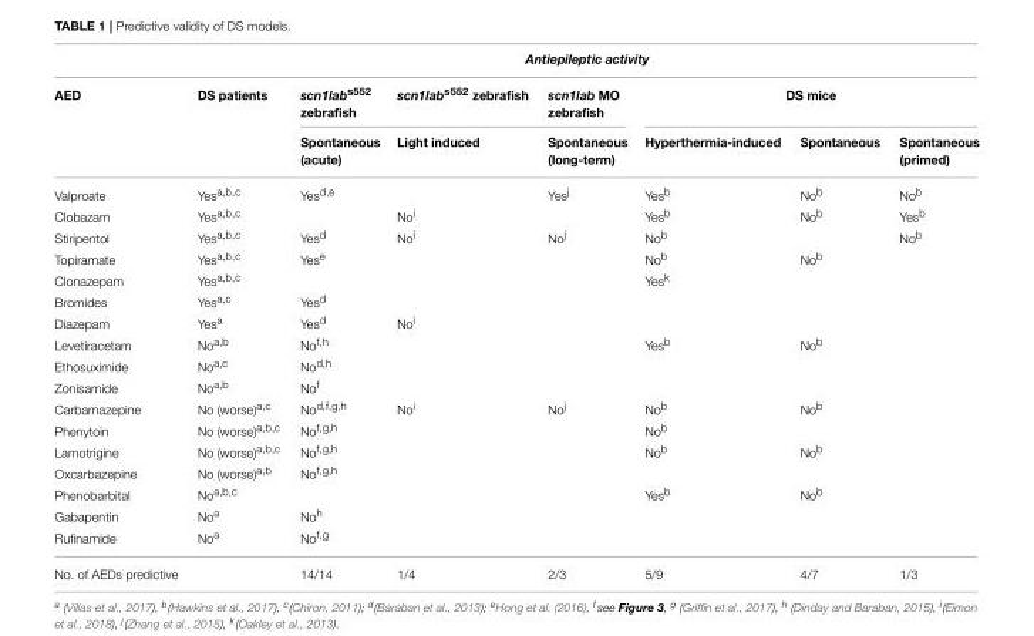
<table><thead><tr><td rowspan="3">AED</td><td colspan="7">Antiepileptic activity</td></tr><tr><td rowspan="2">DS patients</td><td rowspan="2">scn1lab<sup>s552</sup> zebrafish Spontaneous (acute)</td><td rowspan="2">scn1lab<sup>s552</sup> zebrafish Light induced</td><td rowspan="2">scn1lab MO zebrafish Spontaneous (long-term)</td><td colspan="3">DS mice</td></tr><tr><td>Hyperthermia-induced</td><td>Spontaneous</td><td>Spontaneous (primed)</td></tr></thead><tbody><tr><td>Valproate</td><td>Yes<sup>a,b,c</sup></td><td>Yes<sup>d,e</sup></td><td></td><td>Yes<sup>j</sup></td><td>Yes<sup>b</sup></td><td>No<sup>b</sup></td><td>No<sup>b</sup></td></tr><tr><td>Clobazam</td><td>Yes<sup>a,b,c</sup></td><td></td><td>No<sup>i</sup></td><td></td><td>Yes<sup>b</sup></td><td>No<sup>b</sup></td><td>Yes<sup>b</sup></td></tr><tr><td>Stiripentol</td><td>Yes<sup>a,b,c</sup></td><td>Yes<sup>d</sup></td><td>No<sup>i</sup></td><td>No<sup>j</sup></td><td>No<sup>b</sup></td><td></td><td>No<sup>b</sup></td></tr><tr><td>Topiramate</td><td>Yes<sup>a,b,c</sup></td><td>Yes<sup>e</sup></td><td></td><td></td><td>No<sup>b</sup></td><td>No<sup>b</sup></td><td></td></tr><tr><td>Clonazepam</td><td>Yes<sup>a,b,c</sup></td><td></td><td></td><td></td><td>Yes<sup>k</sup></td><td></td><td></td></tr><tr><td>Bromides</td><td>Yes<sup>a,c</sup></td><td>Yes<sup>d</sup></td><td></td><td></td><td></td><td></td><td></td></tr><tr><td>Diazepam</td><td>Yes<sup>a</sup></td><td>Yes<sup>d</sup></td><td>No<sup>i</sup></td><td></td><td></td><td></td><td></td></tr><tr><td>Levetiracetam</td><td>No<sup>a,b</sup></td><td>No<sup>f,h</sup></td><td></td><td></td><td>Yes<sup>b</sup></td><td>No<sup>b</sup></td><td></td></tr><tr><td>Ethosuximide</td><td>No<sup>a,c</sup></td><td>No<sup>d,h</sup></td><td></td><td></td><td></td><td></td><td></td></tr><tr><td>Zonisamide</td><td>No<sup>a,b</sup></td><td>No<sup>f</sup></td><td></td><td></td><td></td><td></td><td></td></tr><tr><td>Carbamazepine</td><td>No (worse)<sup>a,c</sup></td><td>No<sup>d,f,g,h</sup></td><td>No<sup>i</sup></td><td>No<sup>j</sup></td><td>No<sup>b</sup></td><td>No<sup>b</sup></td><td></td></tr><tr><td>Phenytoin</td><td>No (worse)<sup>a,b,c</sup></td><td>No<sup>f,g,h</sup></td><td></td><td></td><td>No<sup>b</sup></td><td></td><td></td></tr><tr><td>Lamotrigine</td><td>No (worse)<sup>a,b,c</sup></td><td>No<sup>f,g,h</sup></td><td></td><td></td><td>No<sup>b</sup></td><td>No<sup>b</sup></td><td></td></tr><tr><td>Oxcarbazepine</td><td>No (worse)<sup>a,b</sup></td><td>No<sup>f,g,h</sup></td><td></td><td></td><td></td><td></td><td></td></tr><tr><td>Phenobarbital</td><td>No<sup>a,b,c</sup></td><td></td><td></td><td></td><td>Yes<sup>b</sup></td><td>No<sup>b</sup></td><td></td></tr><tr><td>Gabapentin</td><td>No<sup>a</sup></td><td>No<sup>h</sup></td><td></td><td></td><td></td><td></td><td></td></tr><tr><td>Rufinamide</td><td>No<sup>a</sup></td><td>No<sup>f,g</sup></td><td></td><td></td><td></td><td></td><td></td></tr><tr><td>No. of AEDs predictive</td><td></td><td>14/14</td><td>1/4</td><td>2/3</td><td>5/9</td><td>4/7</td><td>1/3</td></tr></tbody></table>